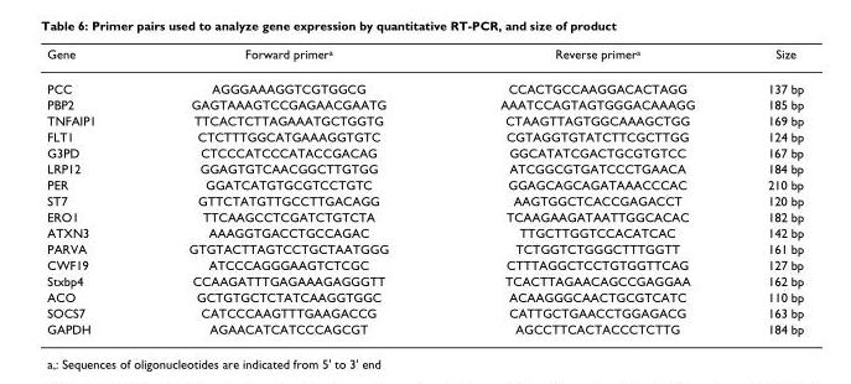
<table><thead><tr><td>Gene</td><td>Forward primer<sup>a</sup></td><td>Reverse primer<sup>a</sup></td><td>Size</td></tr></thead><tbody><tr><td>PCC</td><td>AGGGAAAGGTCGTGGCG</td><td>CCACTGCCAAGGACACTAGG</td><td>137 bp</td></tr><tr><td>PBP2</td><td>GAGTAAAGTCCGAGAACGAATG</td><td>AAATCCAGTAGTGGGACAAAGG</td><td>185 bp</td></tr><tr><td>TNFAIP1</td><td>TTCACTCTTAGAAATGCTGGTG</td><td>CTAAGTTAGTGGCAAAGCTGG</td><td>169 bp</td></tr><tr><td>FLT1</td><td>CTCTTTGGCATGAAAGGTGTC</td><td>CGTAGGTGTATCTTCGCTTGG</td><td>124 bp</td></tr><tr><td>G3PD</td><td>CTCCCATCCCATACCGACAG</td><td>GGCATATCGACTGCGTGTCC</td><td>167 bp</td></tr><tr><td>LRP12</td><td>GGAGTGTCAACGGCTTGTGG</td><td>ATCGGCGTGATCCCTGAACA</td><td>184 bp</td></tr><tr><td>PER</td><td>GGATCATGTGCGTCCTGTC</td><td>GGAGCAGCAGATAAACCCAC</td><td>210 bp</td></tr><tr><td>ST7</td><td>GTTCTATGTTGCCTTGACAGG</td><td>AAGTGGCTCACCGAGACCT</td><td>120 bp</td></tr><tr><td>ERO1</td><td>TTCAAGCCTCGATCTGTCTA</td><td>TCAAGAAGATAATTGGCACAC</td><td>182 bp</td></tr><tr><td>ATXN3</td><td>AAAGGTGACCTGCCAGAC</td><td>TTGCTTGGTCCACATCAC</td><td>142 bp</td></tr><tr><td>PARVA</td><td>GTGTACTTAGTCCTGCTAATGGG</td><td>TCTGGTCTGGGCTTTGGTT</td><td>161 bp</td></tr><tr><td>CWF19</td><td>ATCCCAGGGAAGTCTCGC</td><td>CTTTAGGCTCCTGTGGTTCAG</td><td>127 bp</td></tr><tr><td>Stxbp4</td><td>CCAAGATTTGAGAAAGAGGGTT</td><td>TCACTTAGAACAGCCGAGGAA</td><td>162 bp</td></tr><tr><td>ACO</td><td>GCTGTGCTCTATCAAGGTGGC</td><td>ACAAGGGCAACTGCGTCATC</td><td>110 bp</td></tr><tr><td>SOCS7</td><td>CATCCCAAGTTTGAAGACCG</td><td>CATTGCTGAACCTGGAGACG</td><td>163 bp</td></tr><tr><td>GAPDH</td><td>AGAACATCATCCCAGCGT</td><td>AGCCTTCACTACCCTCTTG</td><td>184 bp</td></tr></tbody></table>